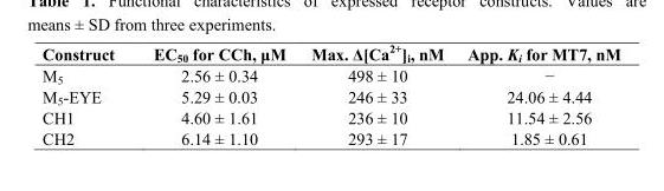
<table><thead><tr><td>Construct</td><td>EC<sub>50</sub> for CCh, μM</td><td>Max. Δ[Ca<sup>2+</sup>]<sub>i</sub>, nM</td><td>App. K<sub>i</sub> for MT7, nM</td></tr></thead><tbody><tr><td>M<sub>5</sub></td><td>2.56 ± 0.34</td><td>498 ± 10</td><td>−</td></tr><tr><td>M<sub>5</sub>-EYE</td><td>5.29 ± 0.03</td><td>246 ± 33</td><td>24.06 ± 4.44</td></tr><tr><td>CH1</td><td>4.60 ± 1.61</td><td>236 ± 10</td><td>11.54 ± 2.56</td></tr><tr><td>CH2</td><td>6.14 ± 1.10</td><td>293 ± 17</td><td>1.85 ± 0.61</td></tr></tbody></table>